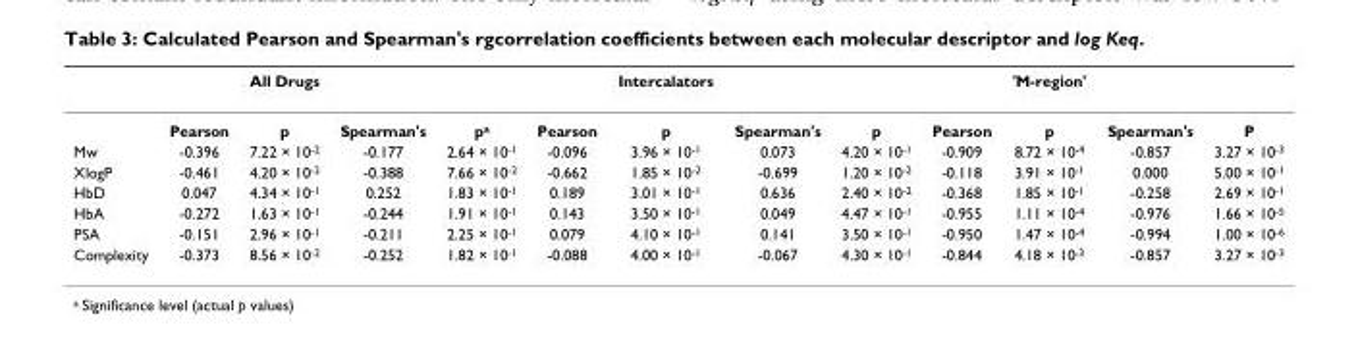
<table><thead><tr><td></td><td></td><td>All Drugs</td><td></td><td></td><td></td><td>Intercalators</td><td></td><td></td><td></td><td>&#x27;M-region&#x27;</td><td></td><td></td></tr></thead><tbody><tr><td></td><td>Pearson</td><td>p</td><td>Spearman&#x27;s</td><td>p<sup>a</sup></td><td>Pearson</td><td>p</td><td>Spearman&#x27;s</td><td>p</td><td>Pearson</td><td>p</td><td>Spearman&#x27;s</td><td>P</td></tr><tr><td>Mw</td><td>-0.396</td><td>7.22 × 10<sup>-2</sup></td><td>-0.177</td><td>2.64 × 10<sup>-1</sup></td><td>-0.096</td><td>3.96 × 10<sup>-1</sup></td><td>0.073</td><td>4.20 × 10<sup>-1</sup></td><td>-0.909</td><td>8.72 × 10<sup>-4</sup></td><td>-0.857</td><td>3.27 × 10<sup>-3</sup></td></tr><tr><td>XlogP</td><td>-0.461</td><td>4.20 × 10<sup>-2</sup></td><td>-0.388</td><td>7.66 × 10<sup>-2</sup></td><td>-0.662</td><td>1.85 × 10<sup>-2</sup></td><td>-0.699</td><td>1.20 × 10<sup>-2</sup></td><td>-0.118</td><td>3.91 × 10<sup>-1</sup></td><td>0.000</td><td>5.00 × 10<sup>-1</sup></td></tr><tr><td>HbD</td><td>0.047</td><td>4.34 × 10<sup>-1</sup></td><td>0.252</td><td>1.83 × 10<sup>-1</sup></td><td>0.189</td><td>3.01 × 10<sup>-1</sup></td><td>0.636</td><td>2.40 × 10<sup>-2</sup></td><td>-0.368</td><td>1.85 × 10<sup>-1</sup></td><td>-0.258</td><td>2.69 × 10<sup>-1</sup></td></tr><tr><td>HbA</td><td>-0.272</td><td>1.63 × 10<sup>-1</sup></td><td>-0.244</td><td>1.91 × 10<sup>-1</sup></td><td>0.143</td><td>3.50 × 10<sup>-1</sup></td><td>0.049</td><td>4.47 × 10<sup>-1</sup></td><td>-0.955</td><td>1.11 × 10<sup>-4</sup></td><td>-0.976</td><td>1.66 × 10<sup>-5</sup></td></tr><tr><td>PSA</td><td>-0.151</td><td>2.96 × 10<sup>-1</sup></td><td>-0.211</td><td>2.25 × 10<sup>-1</sup></td><td>0.079</td><td>4.10 × 10<sup>-1</sup></td><td>0.141</td><td>3.50 × 10<sup>-1</sup></td><td>-0.950</td><td>1.47 × 10<sup>-4</sup></td><td>-0.994</td><td>1.00 × 10<sup>-6</sup></td></tr><tr><td>Complexity</td><td>-0.373</td><td>8.56 × 10<sup>-2</sup></td><td>-0.252</td><td>1.82 × 10<sup>-1</sup></td><td>-0.088</td><td>4.00 × 10<sup>-1</sup></td><td>-0.067</td><td>4.30 × 10<sup>-1</sup></td><td>-0.844</td><td>4.18 × 10<sup>-3</sup></td><td>-0.857</td><td>3.27 × 10<sup>-3</sup></td></tr></tbody></table>